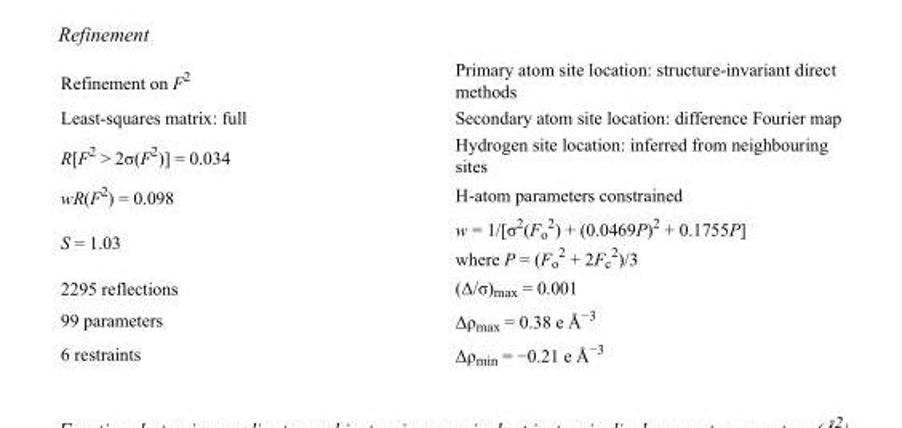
<table><tbody><tr><td>Refinement on F<sup>2</sup></td><td>Primary atom site location: structure-invariant direct methods</td></tr><tr><td>Least-squares matrix: full</td><td>Secondary atom site location: difference Fourier map</td></tr><tr><td>R[F<sup>2</sup> &gt; 2σ(F<sup>2</sup>)] = 0.034</td><td>Hydrogen site location: inferred from neighbouring sites</td></tr><tr><td>wR(F<sup>2</sup>) = 0.098</td><td>H-atom parameters constrained</td></tr><tr><td>S = 1.03</td><td>w = 1/[σ<sup>2</sup>(F<sub>o</sub> <sup>2</sup>) + (0.0469P)<sup>2</sup> + 0.1755P] where P = (F<sub>o</sub> <sup>2</sup> + 2F<sub>c</sub> <sup>2</sup>)/3</td></tr><tr><td>2295 reflections</td><td>(Δ/σ)<sub>max</sub> = 0.001</td></tr><tr><td>99 parameters</td><td>Δρ<sub>max</sub> = 0.38 e Å<sup>−3</sup></td></tr><tr><td>6 restraints</td><td>Δρ<sub>min</sub> = −0.21 e Å<sup>−3</sup></td></tr></tbody></table>